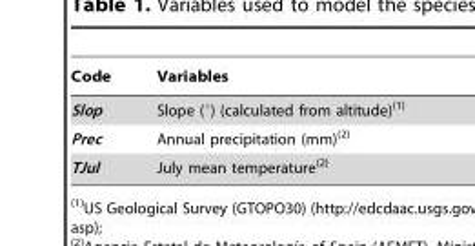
<table><thead><tr><td>Code</td><td>Variables</td></tr></thead><tbody><tr><td>Slop</td><td>Slope (°) (calculated from altitude)(1)</td></tr><tr><td>Prec</td><td>Annual precipitation (mm)(2)</td></tr><tr><td>TJul</td><td>July mean temperature(2)</td></tr></tbody></table>